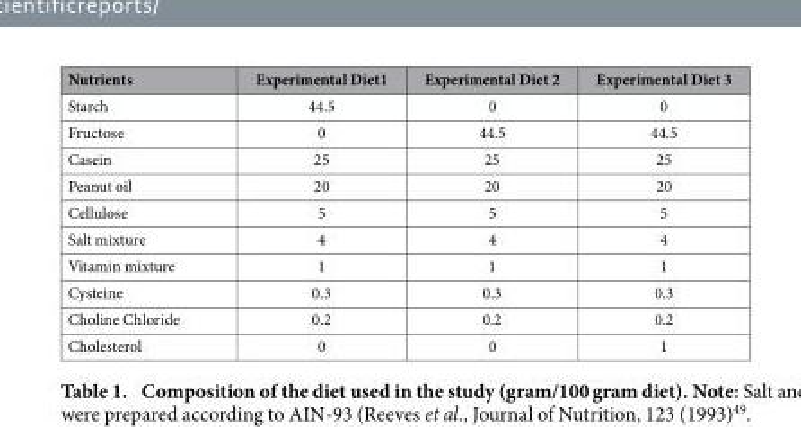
<table><thead><tr><td>Nutrients</td><td>Experimental Diet1</td><td>Experimental Diet 2</td><td>Experimental Diet 3</td></tr></thead><tbody><tr><td>Starch</td><td>44.5</td><td>0</td><td>0</td></tr><tr><td>Fructose</td><td>0</td><td>44.5</td><td>44.5</td></tr><tr><td>Casein</td><td>25</td><td>25</td><td>25</td></tr><tr><td>Peanut oil</td><td>20</td><td>20</td><td>20</td></tr><tr><td>Cellulose</td><td>5</td><td>5</td><td>5</td></tr><tr><td>Salt mixture</td><td>4</td><td>4</td><td>4</td></tr><tr><td>Vitamin mixture</td><td>1</td><td>1</td><td>1</td></tr><tr><td>Cysteine</td><td>0.3</td><td>0.3</td><td>0.3</td></tr><tr><td>Choline Chloride</td><td>0.2</td><td>0.2</td><td>0.2</td></tr><tr><td>Cholesterol</td><td>0</td><td>0</td><td>1</td></tr></tbody></table>